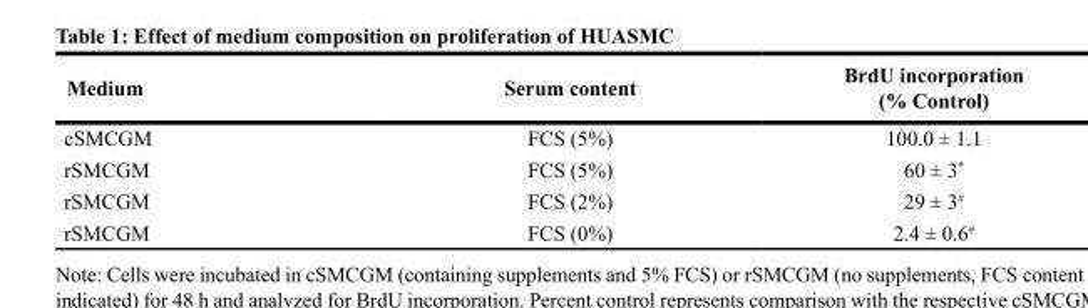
<table><thead><tr><td>Medium</td><td>Serum content</td><td>BrdU incorporation (% Control)</td></tr></thead><tbody><tr><td>cSMCGM</td><td>FCS (5%)</td><td>100.0 ± 1.1</td></tr><tr><td>rSMCGM</td><td>FCS (5%)</td><td>60 ± 3*</td></tr><tr><td>rSMCGM</td><td>FCS (2%)</td><td>29 ± 3<sup>#</sup></td></tr><tr><td>rSMCGM</td><td>FCS (0%)</td><td>2.4 ± 0.6<sup>#</sup></td></tr></tbody></table>